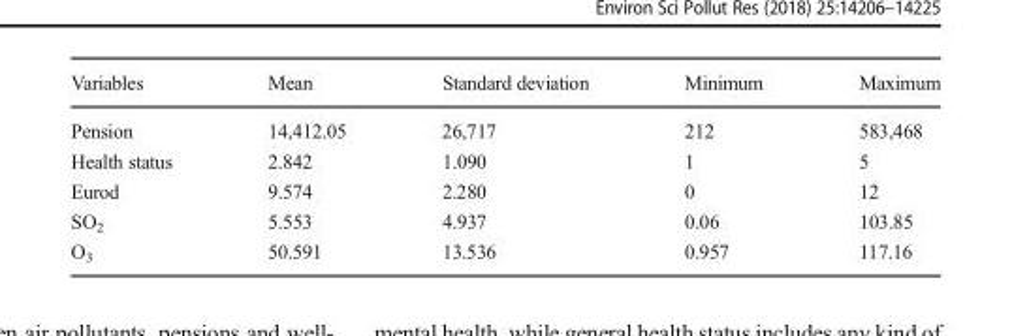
<table><thead><tr><td>Variables</td><td>Mean</td><td>Standard deviation</td><td>Minimum</td><td>Maximum</td></tr></thead><tbody><tr><td>Pension</td><td>14,412.05</td><td>26,717</td><td>212</td><td>583,468</td></tr><tr><td>Health status</td><td>2.842</td><td>1.090</td><td>1</td><td>5</td></tr><tr><td>Eurod</td><td>9.574</td><td>2.280</td><td>0</td><td>12</td></tr><tr><td>SO<sub>2</sub></td><td>5.553</td><td>4.937</td><td>0.06</td><td>103.85</td></tr><tr><td>O<sub>3</sub></td><td>50.591</td><td>13.536</td><td>0.957</td><td>117.16</td></tr></tbody></table>